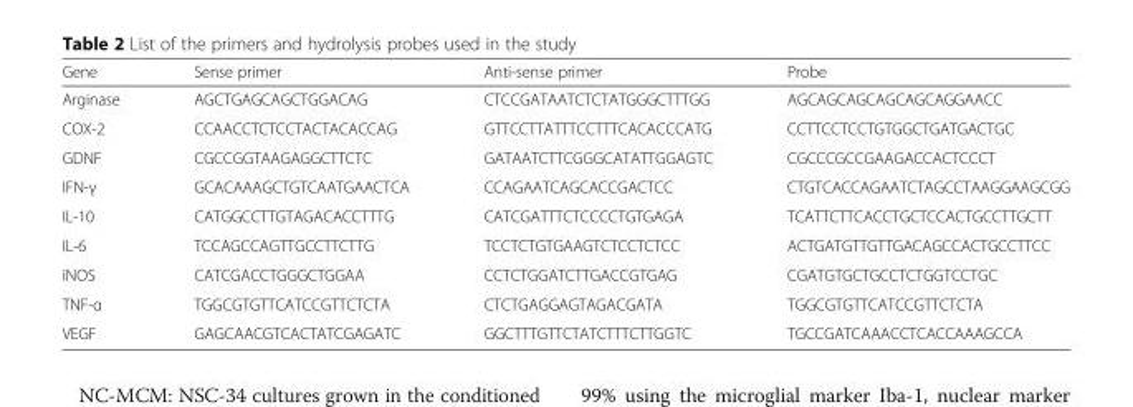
<table><thead><tr><td>Gene</td><td>Sense primer</td><td>Anti-sense primer</td><td>Probe</td></tr></thead><tbody><tr><td>Arginase</td><td>AGCTGAGCAGCTGGACAG</td><td>CTCCGATAATCTCTATGGGCTTTGG</td><td>AGCAGCAGCAGCAGCAGGAACC</td></tr><tr><td>COX-2</td><td>CCAACCTCTCCTACTACACCAG</td><td>GTTCCTTATTTCCTTTCACACCCATG</td><td>CCTTCCTCCTGTGGCTGATGACTGC</td></tr><tr><td>GDNF</td><td>CGCCGGTAAGAGGCTTCTC</td><td>GATAATCTTCGGGCATATTGGAGTC</td><td>CGCCCGCCGAAGACCACTCCCT</td></tr><tr><td>IFN-γ</td><td>GCACAAAGCTGTCAATGAACTCA</td><td>CCAGAATCAGCACCGACTCC</td><td>CTGTCACCAGAATCTAGCCTAAGGAAGCGG</td></tr><tr><td>IL-10</td><td>CATGGCCTTGTAGACACCTTTG</td><td>CATCGATTTCTCCCCTGTGAGA</td><td>TCATTCTTCACCTGCTCCACTGCCTTGCTT</td></tr><tr><td>IL-6</td><td>TCCAGCCAGTTGCCTTCTTG</td><td>TCCTCTGTGAAGTCTCCTCTCC</td><td>ACTGATGTTGTTGACAGCCACTGCCTTCC</td></tr><tr><td>iNOS</td><td>CATCGACCTGGGCTGGAA</td><td>CCTCTGGATCTTGACCGTGAG</td><td>CGATGTGCTGCCTCTGGTCCTGC</td></tr><tr><td>TNF-α</td><td>TGGCGTGTTCATCCGTTCTCTA</td><td>CTCTGAGGAGTAGACGATA</td><td>TGGCGTGTTCATCCGTTCTCTA</td></tr><tr><td>VEGF</td><td>GAGCAACGTCACTATCGAGATC</td><td>GGCTTTGTTCTATCTTTCTTGGTC</td><td>TGCCGATCAAACCTCACCAAAGCCA</td></tr></tbody></table>